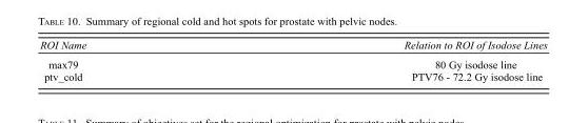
<table><thead><tr><td>ROI Name</td><td>Relation to ROI of Isodose Lines</td></tr></thead><tbody><tr><td>max79</td><td>80 Gy isodose line</td></tr><tr><td>ptv_cold</td><td>PTV76 - 72.2 Gy isodose line</td></tr></tbody></table>